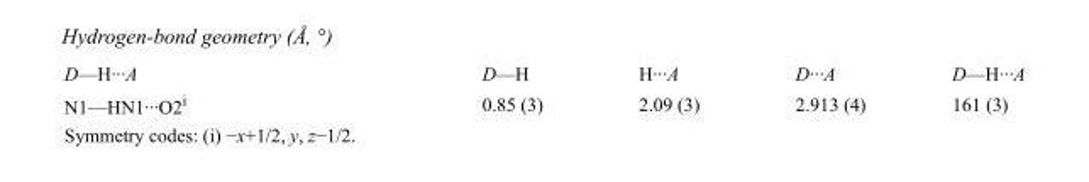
<table><tbody><tr><td>D—H···A</td><td>D—H</td><td>H···A</td><td>D···A</td><td>D—H···A</td></tr><tr><td>N1—HN1···O2<sup>i</sup></td><td>0.85 (3)</td><td>2.09 (3)</td><td>2.913 (4)</td><td>161 (3)</td></tr></tbody></table>